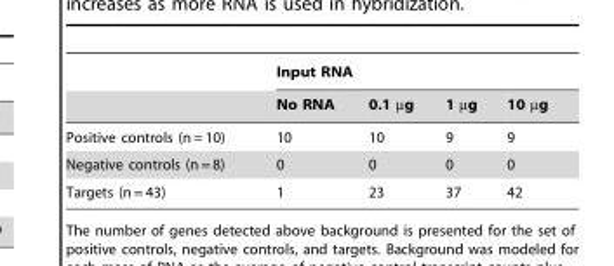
<table><thead><tr><td rowspan="2"></td><td colspan="4">Input RNA</td></tr><tr><td>No RNA</td><td>0.1 µg</td><td>1 µg</td><td>10 µg</td></tr></thead><tbody><tr><td>Positive controls (n = 10)</td><td>10</td><td>10</td><td>9</td><td>9</td></tr><tr><td>Negative controls (n = 8)</td><td>0</td><td>0</td><td>0</td><td>0</td></tr><tr><td>Targets (n = 43)</td><td>1</td><td>23</td><td>37</td><td>42</td></tr></tbody></table>